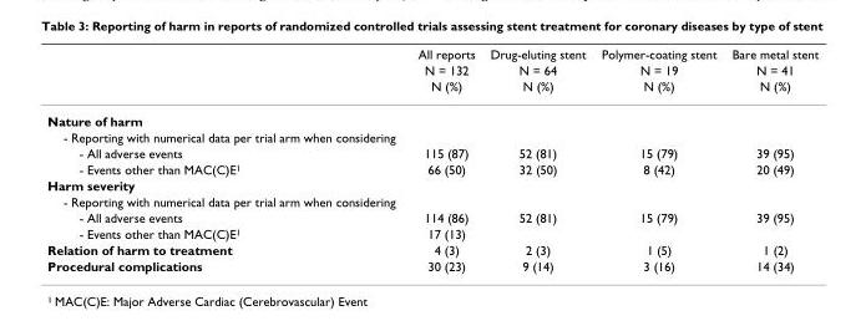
<table><thead><tr><td rowspan="3"></td><td rowspan="3">All reports N = 132 N (%)</td><td rowspan="3">Drug-eluting stent N = 64 N (%)</td><td rowspan="3">Polymer-coating stent N = 19 N (%)</td><td rowspan="3">Bare metal stent N = 41 N (%)</td></tr><tr></tr><tr></tr></thead><tbody><tr><td colspan="5">Nature of harm</td></tr><tr><td colspan="5">- Reporting with numerical data per trial arm when considering</td></tr><tr><td>- All adverse events</td><td>115 (87)</td><td>52 (81)</td><td>15 (79)</td><td>39 (95)</td></tr><tr><td>- Events other than MAC(C)E<sup>1</sup></td><td>66 (50)</td><td>32 (50)</td><td>8 (42)</td><td>20 (49)</td></tr><tr><td colspan="5">Harm severity</td></tr><tr><td colspan="5">- Reporting with numerical data per trial arm when considering</td></tr><tr><td>- All adverse events</td><td>114 (86)</td><td>52 (81)</td><td>15 (79)</td><td>39 (95)</td></tr><tr><td>- Events other than MAC(C)E<sup>1</sup></td><td>17 (13)</td><td></td><td></td><td></td></tr><tr><td>Relation of harm to treatment</td><td>4 (3)</td><td>2 (3)</td><td>1 (5)</td><td>1 (2)</td></tr><tr><td>Procedural complications</td><td>30 (23)</td><td>9 (14)</td><td>3 (16)</td><td>14 (34)</td></tr></tbody></table>